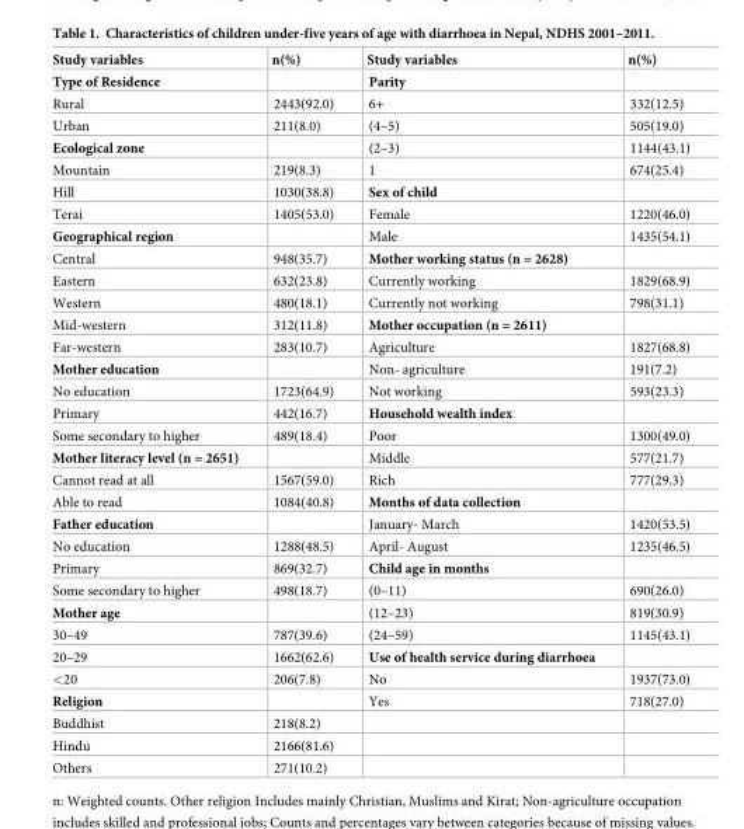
<table><thead><tr><td>Study variables</td><td>n(%)</td><td>Study variables</td><td>n(%)</td></tr></thead><tbody><tr><td>Type of Residence</td><td></td><td>Parity</td><td></td></tr><tr><td>Rural</td><td>2443(92.0)</td><td>6+</td><td>332(12.5)</td></tr><tr><td>Urban</td><td>211(8.0)</td><td>(4–5)</td><td>505(19.0)</td></tr><tr><td>Ecological zone</td><td></td><td>(2–3)</td><td>1144(43.1)</td></tr><tr><td>Mountain</td><td>219(8.3)</td><td>1</td><td>674(25.4)</td></tr><tr><td>Hill</td><td>1030(38.8)</td><td>Sex of child</td><td></td></tr><tr><td>Terai</td><td>1405(53.0)</td><td>Female</td><td>1220(46.0)</td></tr><tr><td>Geographical region</td><td></td><td>Male</td><td>1435(54.1)</td></tr><tr><td>Central</td><td>948(35.7)</td><td>Mother working status (n = 2628)</td><td></td></tr><tr><td>Eastern</td><td>632(23.8)</td><td>Currently working</td><td>1829(68.9)</td></tr><tr><td>Western</td><td>480(18.1)</td><td>Currently not working</td><td>798(31.1)</td></tr><tr><td>Mid-western</td><td>312(11.8)</td><td>Mother occupation (n = 2611)</td><td></td></tr><tr><td>Far-western</td><td>283(10.7)</td><td>Agriculture</td><td>1827(68.8)</td></tr><tr><td>Mother education</td><td></td><td>Non- agriculture</td><td>191(7.2)</td></tr><tr><td>No education</td><td>1723(64.9)</td><td>Not working</td><td>593(23.3)</td></tr><tr><td>Primary</td><td>442(16.7)</td><td>Household wealth index</td><td></td></tr><tr><td>Some secondary to higher</td><td>489(18.4)</td><td>Poor</td><td>1300(49.0)</td></tr><tr><td>Mother literacy level (n = 2651)</td><td></td><td>Middle</td><td>577(21.7)</td></tr><tr><td>Cannot read at all</td><td>1567(59.0)</td><td>Rich</td><td>777(29.3)</td></tr><tr><td>Able to read</td><td>1084(40.8)</td><td>Months of data collection</td><td></td></tr><tr><td>Father education</td><td></td><td>January- March</td><td>1420(53.5)</td></tr><tr><td>No education</td><td>1288(48.5)</td><td>April- August</td><td>1235(46.5)</td></tr><tr><td>Primary</td><td>869(32.7)</td><td>Child age in months</td><td></td></tr><tr><td>Some secondary to higher</td><td>498(18.7)</td><td>(0–11)</td><td>690(26.0)</td></tr><tr><td>Mother age</td><td></td><td>(12–23)</td><td>819(30.9)</td></tr><tr><td>30–49</td><td>787(39.6)</td><td>(24–59)</td><td>1145(43.1)</td></tr><tr><td>20–29</td><td>1662(62.6)</td><td>Use of health service during diarrhoea</td><td></td></tr><tr><td>&lt;20</td><td>206(7.8)</td><td>No</td><td>1937(73.0)</td></tr><tr><td>Religion</td><td></td><td>Yes</td><td>718(27.0)</td></tr><tr><td>Buddhist</td><td>218(8.2)</td><td></td><td></td></tr><tr><td>Hindu</td><td>2166(81.6)</td><td></td><td></td></tr><tr><td>Others</td><td>271(10.2)</td><td></td><td></td></tr></tbody></table>